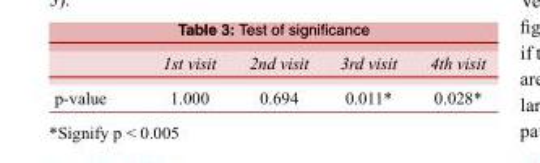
<table><thead><tr><td></td><td>1st visit</td><td>2nd visit</td><td>3rd visit</td><td>4th visit</td></tr></thead><tbody><tr><td>p-value</td><td>1.000</td><td>0.694</td><td>0.011*</td><td>0.028*</td></tr></tbody></table>